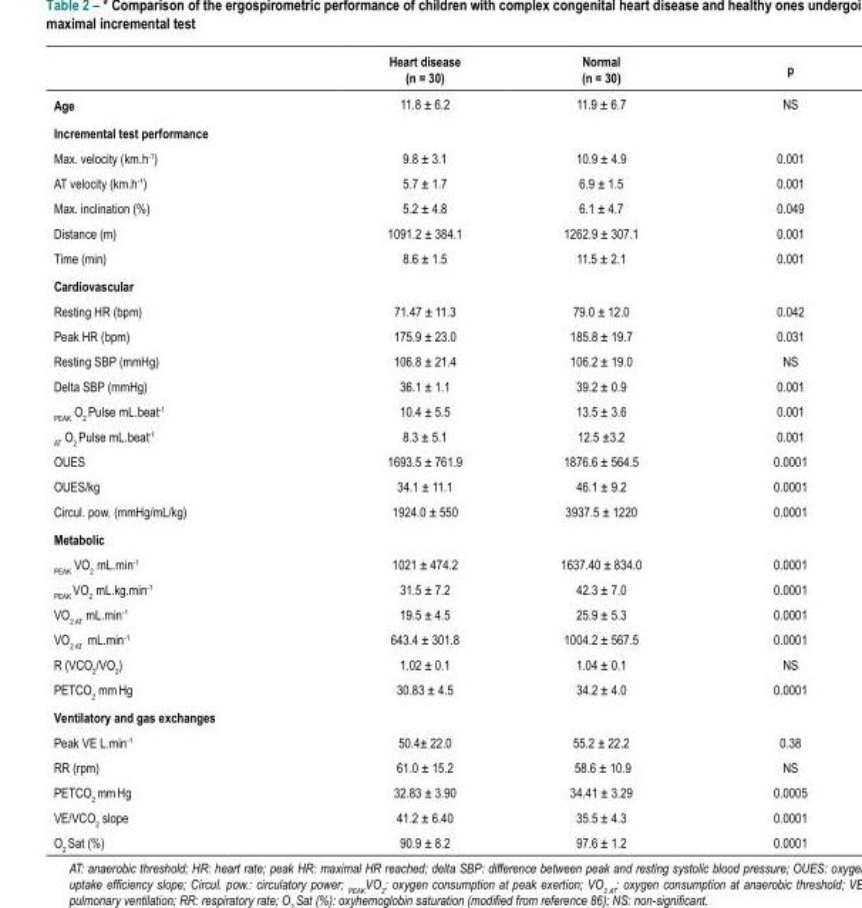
<table><thead><tr><td></td><td>Heart disease (n = 30)</td><td>Normal (n = 30)</td><td>p</td></tr></thead><tbody><tr><td>Age</td><td>11.8 ± 6.2</td><td>11.9 ± 6.7</td><td>NS</td></tr><tr><td colspan="4">Incremental test performance</td></tr><tr><td>Max. velocity (km.h<sup>-1</sup>)</td><td>9.8 ± 3.1</td><td>10.9 ± 4.9</td><td>0.001</td></tr><tr><td>AT velocity (km.h<sup>-1</sup>)</td><td>5.7 ± 1.7</td><td>6.9 ± 1.5</td><td>0.001</td></tr><tr><td>Max. inclination (%)</td><td>5.2 ± 4.8</td><td>6.1 ± 4.7</td><td>0.049</td></tr><tr><td>Distance (m)</td><td>1091.2 ± 384.1</td><td>1262.9 ± 307.1</td><td>0.001</td></tr><tr><td>Time (min)</td><td>8.6 ± 1.5</td><td>11.5 ± 2.1</td><td>0.001</td></tr><tr><td colspan="4">Cardiovascular</td></tr><tr><td>Resting HR (bpm)</td><td>71.47 ± 11.3</td><td>79.0 ± 12.0</td><td>0.042</td></tr><tr><td>Peak HR (bpm)</td><td>175.9 ± 23.0</td><td>185.8 ± 19.7</td><td>0.031</td></tr><tr><td>Resting SBP (mmHg)</td><td>106.8 ± 21.4</td><td>106.2 ± 19.0</td><td>NS</td></tr><tr><td>Delta SBP (mmHg)</td><td>36.1 ± 1.1</td><td>39.2 ± 0.9</td><td>0.001</td></tr><tr><td><sub>PEAK</sub> O<sub>2</sub> Pulse mL.beat<sup>-1</sup></td><td>10.4 ± 5.5</td><td>13.5 ± 3.6</td><td>0.001</td></tr><tr><td><sub>AT</sub> O<sub>2</sub> Pulse mL.beat<sup>-1</sup></td><td>8.3 ± 5.1</td><td>12.5 ±3.2</td><td>0.001</td></tr><tr><td>OUES</td><td>1693.5 ± 761.9</td><td>1876.6 ± 564.5</td><td>0.0001</td></tr><tr><td>OUES/kg</td><td>34.1 ± 11.1</td><td>46.1 ± 9.2</td><td>0.0001</td></tr><tr><td>Circul. pow. (mmHg/mL/kg)</td><td>1924.0 ± 550</td><td>3937.5 ± 1220</td><td>0.0001</td></tr><tr><td colspan="4">Metabolic</td></tr><tr><td><sub>PEAK</sub> VO<sub>2</sub> mL.min<sup>-1</sup></td><td>1021 ± 474.2</td><td>1637.40 ± 834.0</td><td>0.0001</td></tr><tr><td><sub>PEAK</sub> VO<sub>2</sub> mL.kg.min<sup>-1</sup></td><td>31.5 ± 7.2</td><td>42.3 ± 7.0</td><td>0.0001</td></tr><tr><td>VO<sub>2 AT</sub> mL.min<sup>-1</sup></td><td>19.5 ± 4.5</td><td>25.9 ± 5.3</td><td>0.0001</td></tr><tr><td>VO<sub>2 AT</sub> mL.min<sup>-1</sup></td><td>643.4 ± 301.8</td><td>1004.2 ± 567.5</td><td>0.0001</td></tr><tr><td>R (VCO<sub>2</sub>/VO<sub>2</sub>)</td><td>1.02 ± 0.1</td><td>1.04 ± 0.1</td><td>NS</td></tr><tr><td>PETCO<sub>2</sub> mm Hg</td><td>30.83 ± 4.5</td><td>34.2 ± 4.0</td><td>0.0001</td></tr><tr><td colspan="4">Ventilatory and gas exchanges</td></tr><tr><td>Peak VE L.min<sup>-1</sup></td><td>50.4± 22.0</td><td>55.2 ± 22.2</td><td>0.38</td></tr><tr><td>RR (rpm)</td><td>61.0 ± 15.2</td><td>58.6 ± 10.9</td><td>NS</td></tr><tr><td>PETCO<sub>2</sub> mm Hg</td><td>32.83 ± 3.90</td><td>34.41 ± 3.29</td><td>0.0005</td></tr><tr><td>VE/VCO<sub>2</sub> slope</td><td>41.2 ± 6.40</td><td>35.5 ± 4.3</td><td>0.0001</td></tr><tr><td>O<sub>2</sub> Sat (%)</td><td>90.9 ± 8.2</td><td>97.6 ± 1.2</td><td>0.0001</td></tr></tbody></table>